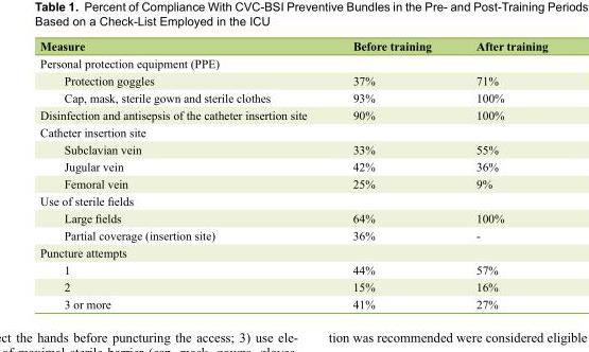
<table><thead><tr><td>Measure</td><td>Before training</td><td>After training</td></tr></thead><tbody><tr><td colspan="3">Personal protection equipment (PPE)</td></tr><tr><td>Protection goggles</td><td>37%</td><td>71%</td></tr><tr><td>Cap, mask, sterile gown and sterile clothes</td><td>93%</td><td>100%</td></tr><tr><td>Disinfection and antisepsis of the catheter insertion site</td><td>90%</td><td>100%</td></tr><tr><td colspan="3">Catheter insertion site</td></tr><tr><td>Subclavian vein</td><td>33%</td><td>55%</td></tr><tr><td>Jugular vein</td><td>42%</td><td>36%</td></tr><tr><td>Femoral vein</td><td>25%</td><td>9%</td></tr><tr><td colspan="3">Use of sterile fields</td></tr><tr><td>Large fields</td><td>64%</td><td>100%</td></tr><tr><td>Partial coverage (insertion site)</td><td>36%</td><td>-</td></tr><tr><td colspan="3">Puncture attempts</td></tr><tr><td>1</td><td>44%</td><td>57%</td></tr><tr><td>2</td><td>15%</td><td>16%</td></tr><tr><td>3 or more</td><td>41%</td><td>27%</td></tr></tbody></table>